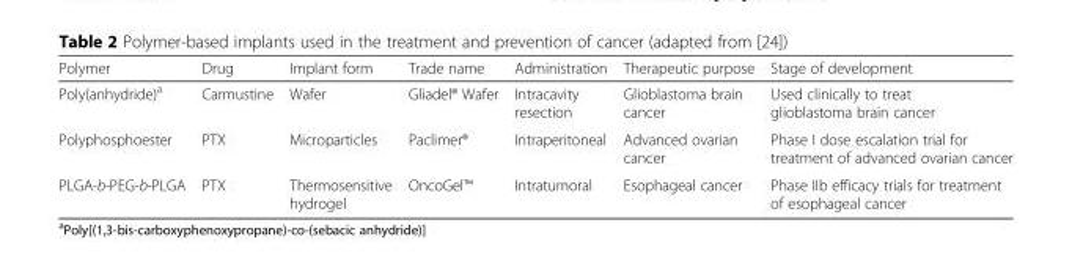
<table><thead><tr><td>Polymer</td><td>Drug</td><td>Implant form</td><td>Trade name</td><td>Administration</td><td>Therapeutic purpose</td><td>Stage of development</td></tr></thead><tbody><tr><td>Poly(anhydride)<sup>a</sup></td><td>Carmustine</td><td>Wafer</td><td>Gliadel® Wafer</td><td>Intracavity resection</td><td>Glioblastoma brain cancer</td><td>Used clinically to treat glioblastoma brain cancer</td></tr><tr><td>Polyphosphoester</td><td>PTX</td><td>Microparticles</td><td>Paclimer®</td><td>Intraperitoneal</td><td>Advanced ovarian cancer</td><td>Phase I dose escalation trial for treatment of advanced ovarian cancer</td></tr><tr><td>PLGA-b-PEG-b-PLGA</td><td>PTX</td><td>Thermosensitive hydrogel</td><td>OncoGel™</td><td>Intratumoral</td><td>Esophageal cancer</td><td>Phase IIb efficacy trials for treatment of esophageal cancer</td></tr></tbody></table>